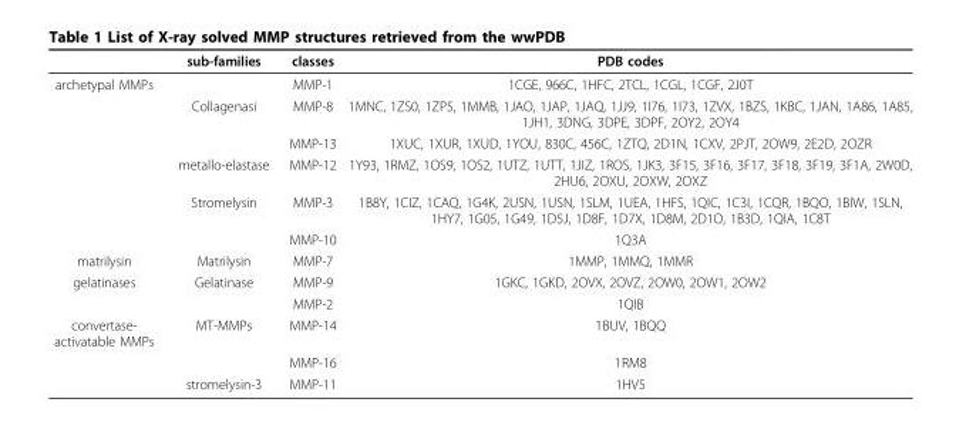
<table><thead><tr><td></td><td>sub-families</td><td>classes</td><td>PDB codes</td></tr></thead><tbody><tr><td rowspan="6">archetypal MMPs</td><td></td><td>MMP-1</td><td>1CGE, 966C, 1HFC, 2TCL, 1CGL, 1CGF, 2J0T</td></tr><tr><td>Collagenasi</td><td>MMP-8</td><td>1MNC, 1ZS0, 1ZP5, 1MMB, 1JAO, 1JAP, 1JAQ, 1JJ9, 1I76, 1I73, 1ZVX, 1BZS, 1KBC, 1JAN, 1A86, 1A85, 1JH1, 3DNG, 3DPE, 3DPF, 2OY2, 2OY4</td></tr><tr><td></td><td>MMP-13</td><td>1XUC, 1XUR, 1XUD, 1YOU, 830C, 456C, 1ZTQ, 2D1N, 1CXV, 2PJT, 2OW9, 2E2D, 2OZR</td></tr><tr><td>metallo-elastase</td><td>MMP-12</td><td>1Y93, 1RMZ, 1OS9, 1OS2, 1UTZ, 1UTT, 1JIZ, 1ROS, 1JK3, 3F15, 3F16, 3F17, 3F18, 3F19, 3F1A, 2W0D, 2HU6, 2OXU, 2OXW, 2OXZ</td></tr><tr><td>Stromelysin</td><td>MMP-3</td><td>1B8Y, 1CIZ, 1CAQ, 1G4K, 2USN, 1USN, 1SLM, 1UEA, 1HFS, 1QIC, 1C3I, 1CQR, 1BQO, 1BIW, 1SLN, 1HY7, 1G05, 1G49, 1D5J, 1D8F, 1D7X, 1D8M, 2D1O, 1B3D, 1QIA, 1C8T</td></tr><tr><td></td><td>MMP-10</td><td>1Q3A</td></tr><tr><td>matrilysin</td><td>Matrilysin</td><td>MMP-7</td><td>1MMP, 1MMQ, 1MMR</td></tr><tr><td rowspan="2">gelatinases</td><td>Gelatinase</td><td>MMP-9</td><td>1GKC, 1GKD, 2OVX, 2OVZ, 2OW0, 2OW1, 2OW2</td></tr><tr><td></td><td>MMP-2</td><td>1QIB</td></tr><tr><td rowspan="3">convertase- activatable MMPs</td><td>MT-MMPs</td><td>MMP-14</td><td>1BUV, 1BQQ</td></tr><tr><td></td><td>MMP-16</td><td>1RM8</td></tr><tr><td>stromelysin-3</td><td>MMP-11</td><td>1HV5</td></tr></tbody></table>